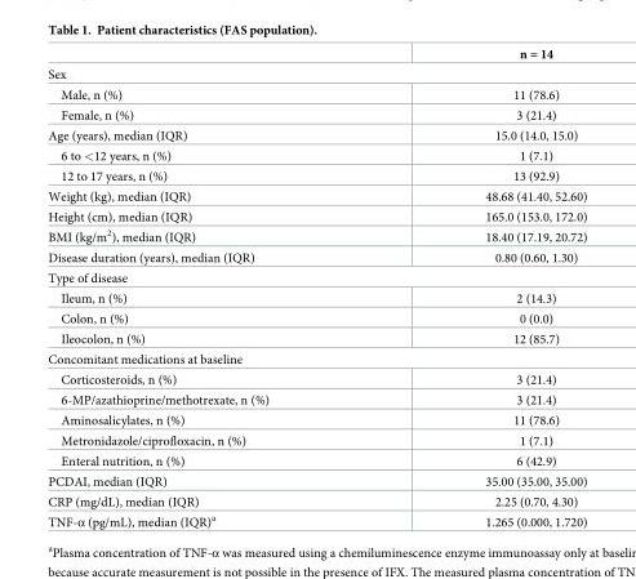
<table><thead><tr><td></td><td>n = 14</td></tr></thead><tbody><tr><td colspan="2">Sex</td></tr><tr><td>Male, n (%)</td><td>11 (78.6)</td></tr><tr><td>Female, n (%)</td><td>3 (21.4)</td></tr><tr><td>Age (years), median (IQR)</td><td>15.0 (14.0, 15.0)</td></tr><tr><td>6 to &lt;12 years, n (%)</td><td>1 (7.1)</td></tr><tr><td>12 to 17 years, n (%)</td><td>13 (92.9)</td></tr><tr><td>Weight (kg), median (IQR)</td><td>48.68 (41.40, 52.60)</td></tr><tr><td>Height (cm), median (IQR)</td><td>165.0 (153.0, 172.0)</td></tr><tr><td>BMI (kg/m<sup>2</sup>), median (IQR)</td><td>18.40 (17.19, 20.72)</td></tr><tr><td>Disease duration (years), median (IQR)</td><td>0.80 (0.60, 1.30)</td></tr><tr><td colspan="2">Type of disease</td></tr><tr><td>Ileum, n (%)</td><td>2 (14.3)</td></tr><tr><td>Colon, n (%)</td><td>0 (0.0)</td></tr><tr><td>Ileocolon, n (%)</td><td>12 (85.7)</td></tr><tr><td colspan="2">Concomitant medications at baseline</td></tr><tr><td>Corticosteroids, n (%)</td><td>3 (21.4)</td></tr><tr><td>6-MP/azathioprine/methotrexate, n (%)</td><td>3 (21.4)</td></tr><tr><td>Aminosalicylates, n (%)</td><td>11 (78.6)</td></tr><tr><td>Metronidazole/ciprofloxacin, n (%)</td><td>1 (7.1)</td></tr><tr><td>Enteral nutrition, n (%)</td><td>6 (42.9)</td></tr><tr><td>PCDAI, median (IQR)</td><td>35.00 (35.00, 35.00)</td></tr><tr><td>CRP (mg/dL), median (IQR)</td><td>2.25 (0.70, 4.30)</td></tr><tr><td>TNF-α (pg/mL), median (IQR)<sup>a</sup></td><td>1.265 (0.000, 1.720)</td></tr></tbody></table>